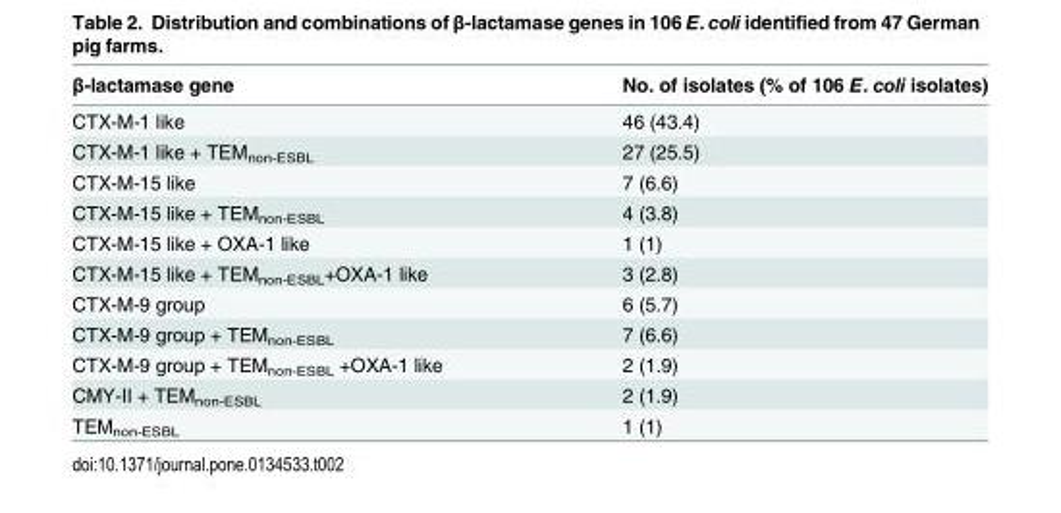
<table><thead><tr><td>β-lactamase gene</td><td>No. of isolates (% of 106 E. coli isolates)</td></tr></thead><tbody><tr><td>CTX-M-1 like</td><td>46 (43.4)</td></tr><tr><td>CTX-M-1 like + TEM<sub>non-ESBL</sub></td><td>27 (25.5)</td></tr><tr><td>CTX-M-15 like</td><td>7 (6.6)</td></tr><tr><td>CTX-M-15 like + TEM<sub>non-ESBL</sub></td><td>4 (3.8)</td></tr><tr><td>CTX-M-15 like + OXA-1 like</td><td>1 (1)</td></tr><tr><td>CTX-M-15 like + TEM<sub>non-ESBL</sub>+OXA-1 like</td><td>3 (2.8)</td></tr><tr><td>CTX-M-9 group</td><td>6 (5.7)</td></tr><tr><td>CTX-M-9 group + TEM<sub>non-ESBL</sub></td><td>7 (6.6)</td></tr><tr><td>CTX-M-9 group + TEM<sub>non-ESBL</sub> +OXA-1 like</td><td>2 (1.9)</td></tr><tr><td>CMY-II + TEM<sub>non-ESBL</sub></td><td>2 (1.9)</td></tr><tr><td>TEM<sub>non-ESBL</sub></td><td>1 (1)</td></tr></tbody></table>